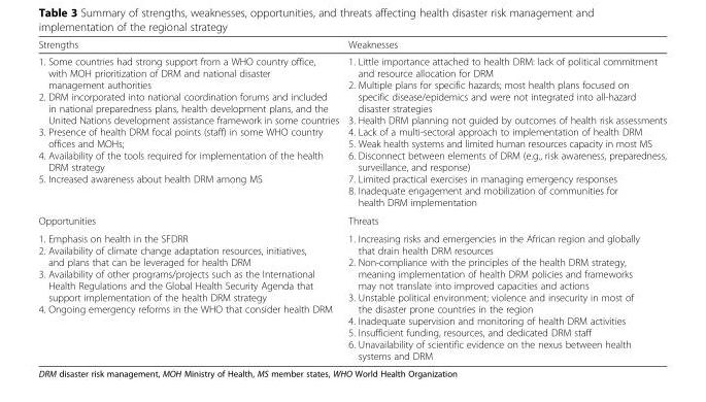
<table><thead><tr><td>Strengths</td><td>Weaknesses</td></tr></thead><tbody><tr><td>1. Some countries had strong support from a WHO country office, with MOH prioritization of DRM and national disaster management authorities 2. DRM incorporated into national coordination forums and included in national preparedness plans, health development plans, and the United Nations development assistance framework in some countries 3. Presence of health DRM focal points (staff) in some WHO country offices and MOHs; 4. Availability of the tools required for implementation of the health DRM strategy 5. Increased awareness about health DRM among MS</td><td>1. Little importance attached to health DRM: lack of political commitment and resource allocation for DRM 2. Multiple plans for specific hazards; most health plans focused on specific disease/epidemics and were not integrated into all-hazard disaster strategies 3. Health DRM planning not guided by outcomes of health risk assessments 4. Lack of a multi-sectoral approach to implementation of health DRM 5. Weak health systems and limited human resources capacity in most MS 6. Disconnect between elements of DRM (e.g., risk awareness, preparedness, surveillance, and response) 7. Limited practical exercises in managing emergency responses 8. Inadequate engagement and mobilization of communities for health DRM implementation</td></tr><tr><td>Opportunities</td><td>Threats</td></tr><tr><td>1. Emphasis on health in the SFDRR 2. Availability of climate change adaptation resources, initiatives, and plans that can be leveraged for health DRM 3. Availability of other programs/projects such as the International Health Regulations and the Global Health Security Agenda that support implementation of the health DRM strategy 4. Ongoing emergency reforms in the WHO that consider health DRM</td><td>1. Increasing risks and emergencies in the African region and globally that drain health DRM resources 2. Non-compliance with the principles of the health DRM strategy, meaning implementation of health DRM policies and frameworks may not translate into improved capacities and actions 3. Unstable political environment; violence and insecurity in most of the disaster prone countries in the region 4. Inadequate supervision and monitoring of health DRM activities 5. Insufficient funding, resources, and dedicated DRM staff 6. Unavailability of scientific evidence on the nexus between health systems and DRM</td></tr></tbody></table>